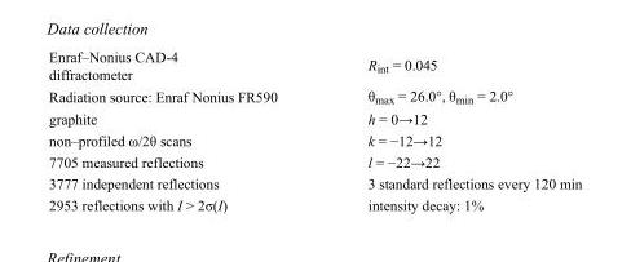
<table><tbody><tr><td>Enraf–Nonius CAD-4 diffractometer</td><td>R<sub>int</sub> = 0.045</td></tr><tr><td>Radiation source: Enraf Nonius FR590</td><td>θ<sub>max</sub> = 26.0°, θ<sub>min</sub> = 2.0°</td></tr><tr><td>graphite</td><td>h = 0→12</td></tr><tr><td>non–profiled ω/2θ scans</td><td>k = −12→12</td></tr><tr><td>7705 measured reflections</td><td>l = −22→22</td></tr><tr><td>3777 independent reflections</td><td>3 standard reflections every 120 min</td></tr><tr><td>2953 reflections with I &gt; 2σ(I)</td><td>intensity decay: 1%</td></tr></tbody></table>